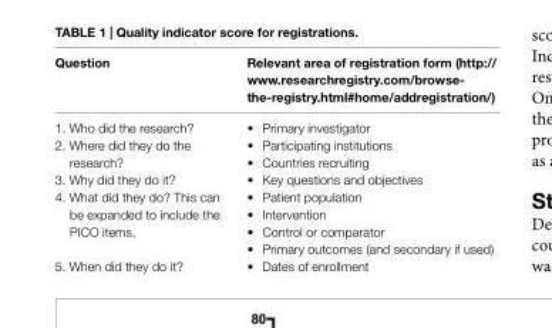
<table><thead><tr><td>Question</td><td>relevant area of registration form (http:// www.researchregistry.com/browse- the-registry.html#home/addregistration/)</td></tr></thead><tbody><tr><td>1. Who did the research?</td><td>• Primary investigator</td></tr><tr><td>2. Where did they do the research?</td><td>• Participating institutions • Countries recruiting</td></tr><tr><td>3. Why did they do it?</td><td>• Key questions and objectives</td></tr><tr><td>4. What did they do? This can be expanded to include the PICO items.</td><td>• Patient population • Intervention • Control or comparator • Primary outcomes (and secondary if used)</td></tr><tr><td>5. When did they do it?</td><td>• Dates of enrollment</td></tr></tbody></table>